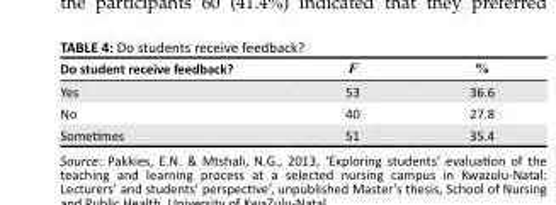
<table><thead><tr><td>Do student receive feedback?</td><td>F</td><td>%</td></tr></thead><tbody><tr><td>Yes</td><td>53</td><td>36.6</td></tr><tr><td>No</td><td>40</td><td>27.8</td></tr><tr><td>Sometimes</td><td>51</td><td>35.4</td></tr></tbody></table>